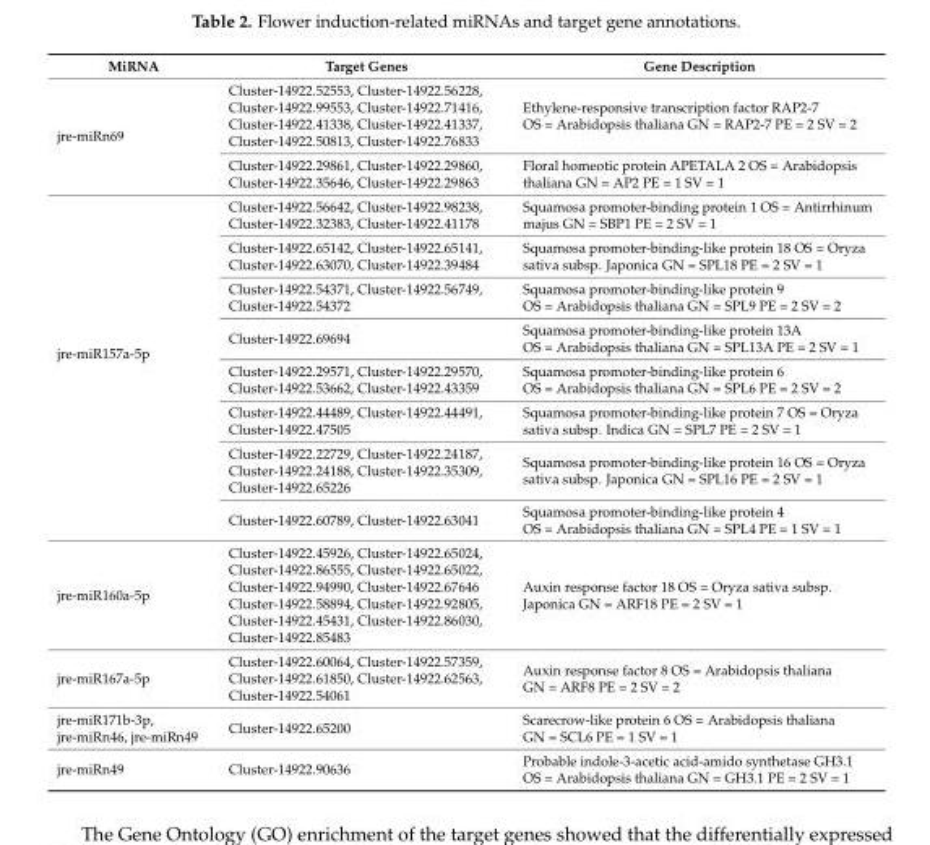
<table><thead><tr><td>MiRNA</td><td>Target Genes</td><td>Gene Description</td></tr></thead><tbody><tr><td rowspan="2">jre-miRn69</td><td>Cluster-14922.52553, Cluster-14922.56228, Cluster-14922.99553, Cluster-14922.71416, Cluster-14922.41338, Cluster-14922.41337, Cluster-14922.50813, Cluster-14922.76833</td><td>Ethylene-responsive transcription factor RAP2-7 OS = Arabidopsis thaliana GN = RAP2-7 PE = 2 SV = 2</td></tr><tr><td>Cluster-14922.29861, Cluster-14922.29860, Cluster-14922.35646, Cluster-14922.29863</td><td>Floral homeotic protein APETALA 2 OS = Arabidopsis thaliana GN = AP2 PE = 1 SV = 1</td></tr><tr><td rowspan="8">jre-miR157a-5p</td><td>Cluster-14922.56642, Cluster-14922.98238, Cluster-14922.32383, Cluster-14922.41178</td><td>Squamosa promoter-binding protein 1 OS = Antirrhinum majus GN = SBP1 PE = 2 SV = 1</td></tr><tr><td>Cluster-14922.65142, Cluster-14922.65141, Cluster-14922.63070, Cluster-14922.39484</td><td>Squamosa promoter-binding-like protein 18 OS = Oryza sativa subsp. Japonica GN = SPL18 PE = 2 SV = 1</td></tr><tr><td>Cluster-14922.54371, Cluster-14922.56749, Cluster-14922.54372</td><td>Squamosa promoter-binding-like protein 9 OS = Arabidopsis thaliana GN = SPL9 PE = 2 SV = 2</td></tr><tr><td>Cluster-14922.69694</td><td>Squamosa promoter-binding-like protein 13A OS = Arabidopsis thaliana GN = SPL13A PE = 2 SV = 1</td></tr><tr><td>Cluster-14922.29571, Cluster-14922.29570, Cluster-14922.53662, Cluster-14922.43359</td><td>Squamosa promoter-binding-like protein 6 OS = Arabidopsis thaliana GN = SPL6 PE = 2 SV = 2</td></tr><tr><td>Cluster-14922.44489, Cluster-14922.44491, Cluster-14922.47505</td><td>Squamosa promoter-binding-like protein 7 OS = Oryza sativa subsp. Indica GN = SPL7 PE = 2 SV = 1</td></tr><tr><td>Cluster-14922.22729, Cluster-14922.24187, Cluster-14922.24188, Cluster-14922.35309, Cluster-14922.65226</td><td>Squamosa promoter-binding-like protein 16 OS = Oryza sativa subsp. Japonica GN = SPL16 PE = 2 SV = 1</td></tr><tr><td>Cluster-14922.60789, Cluster-14922.63041</td><td>Squamosa promoter-binding-like protein 4 OS = Arabidopsis thaliana GN = SPL4 PE = 1 SV = 1</td></tr><tr><td>jre-miR160a-5p</td><td>Cluster-14922.45926, Cluster-14922.65024, Cluster-14922.86555, Cluster-14922.65022, Cluster-14922.94990, Cluster-14922.67646 Cluster-14922.58894, Cluster-14922.92805, Cluster-14922.45431, Cluster-14922.86030, Cluster-14922.85483</td><td>Auxin response factor 18 OS = Oryza sativa subsp. Japonica GN = ARF18 PE = 2 SV = 1</td></tr><tr><td>jre-miR167a-5p</td><td>Cluster-14922.60064, Cluster-14922.57359, Cluster-14922.61850, Cluster-14922.62563, Cluster-14922.54061</td><td>Auxin response factor 8 OS = Arabidopsis thaliana GN = ARF8 PE = 2 SV = 2</td></tr><tr><td>jre-miR171b-3p, jre-miRn46, jre-miRn49</td><td>Cluster-14922.65200</td><td>Scarecrow-like protein 6 OS = Arabidopsis thaliana GN = SCL6 PE = 1 SV = 1</td></tr><tr><td>jre-miRn49</td><td>Cluster-14922.90636</td><td>Probable indole-3-acetic acid-amido synthetase GH3.1 OS = Arabidopsis thaliana GN = GH3.1 PE = 2 SV = 1</td></tr></tbody></table>